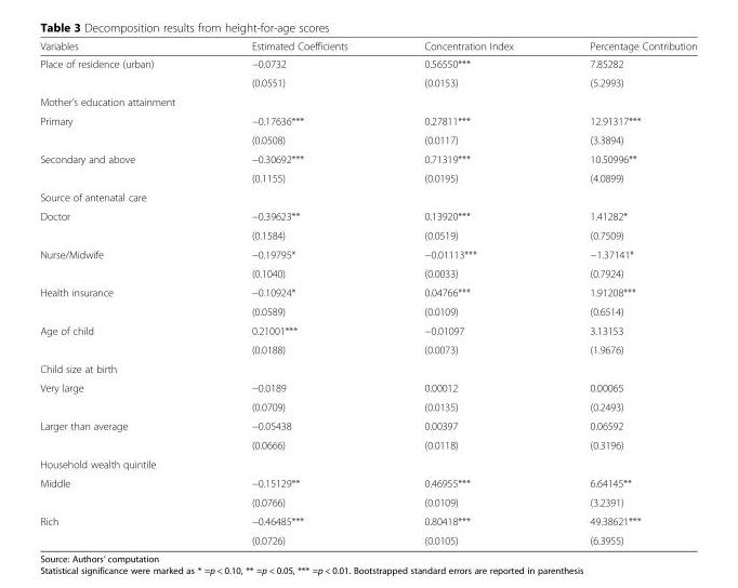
<table><thead><tr><td>Variables</td><td>Estimated Coefficients</td><td>Concentration Index</td><td>Percentage Contribution</td></tr></thead><tbody><tr><td rowspan="2">Place of residence (urban)</td><td>−0.0732</td><td>0.56550***</td><td>7.85282</td></tr><tr><td>(0.0551)</td><td>(0.0153)</td><td>(5.2993)</td></tr><tr><td colspan="4">Mother’s education attainment</td></tr><tr><td rowspan="2">Primary</td><td>−0.17636***</td><td>0.27811***</td><td>12.91317***</td></tr><tr><td>(0.0508)</td><td>(0.0117)</td><td>(3.3894)</td></tr><tr><td rowspan="2">Secondary and above</td><td>−0.30692***</td><td>0.71319***</td><td>10.50996**</td></tr><tr><td>(0.1155)</td><td>(0.0195)</td><td>(4.0899)</td></tr><tr><td colspan="4">Source of antenatal care</td></tr><tr><td rowspan="2">Doctor</td><td>−0.39623**</td><td>0.13920***</td><td>1.41282*</td></tr><tr><td>(0.1584)</td><td>(0.0519)</td><td>(0.7509)</td></tr><tr><td rowspan="2">Nurse/Midwife</td><td>−0.19795*</td><td>−0.01113***</td><td>−1.37141*</td></tr><tr><td>(0.1040)</td><td>(0.0033)</td><td>(0.7924)</td></tr><tr><td rowspan="2">Health insurance</td><td>−0.10924*</td><td>0.04766***</td><td>1.91208***</td></tr><tr><td>(0.0589)</td><td>(0.0109)</td><td>(0.6514)</td></tr><tr><td rowspan="2">Age of child</td><td>0.21001***</td><td>−0.01097</td><td>3.13153</td></tr><tr><td>(0.0188)</td><td>(0.0073)</td><td>(1.9676)</td></tr><tr><td colspan="4">Child size at birth</td></tr><tr><td rowspan="2">Very large</td><td>−0.0189</td><td>0.00012</td><td>0.00065</td></tr><tr><td>(0.0709)</td><td>(0.0135)</td><td>(0.2493)</td></tr><tr><td rowspan="2">Larger than average</td><td>−0.05438</td><td>0.00397</td><td>0.06592</td></tr><tr><td>(0.0666)</td><td>(0.0118)</td><td>(0.3196)</td></tr><tr><td colspan="4">Household wealth quintile</td></tr><tr><td rowspan="2">Middle</td><td>−0.15129**</td><td>0.46955***</td><td>6.64145**</td></tr><tr><td>(0.0766)</td><td>(0.0109)</td><td>(3.2391)</td></tr><tr><td rowspan="2">Rich</td><td>−0.46485***</td><td>0.80418***</td><td>49.38621***</td></tr><tr><td>(0.0726)</td><td>(0.0105)</td><td>(6.3955)</td></tr></tbody></table>